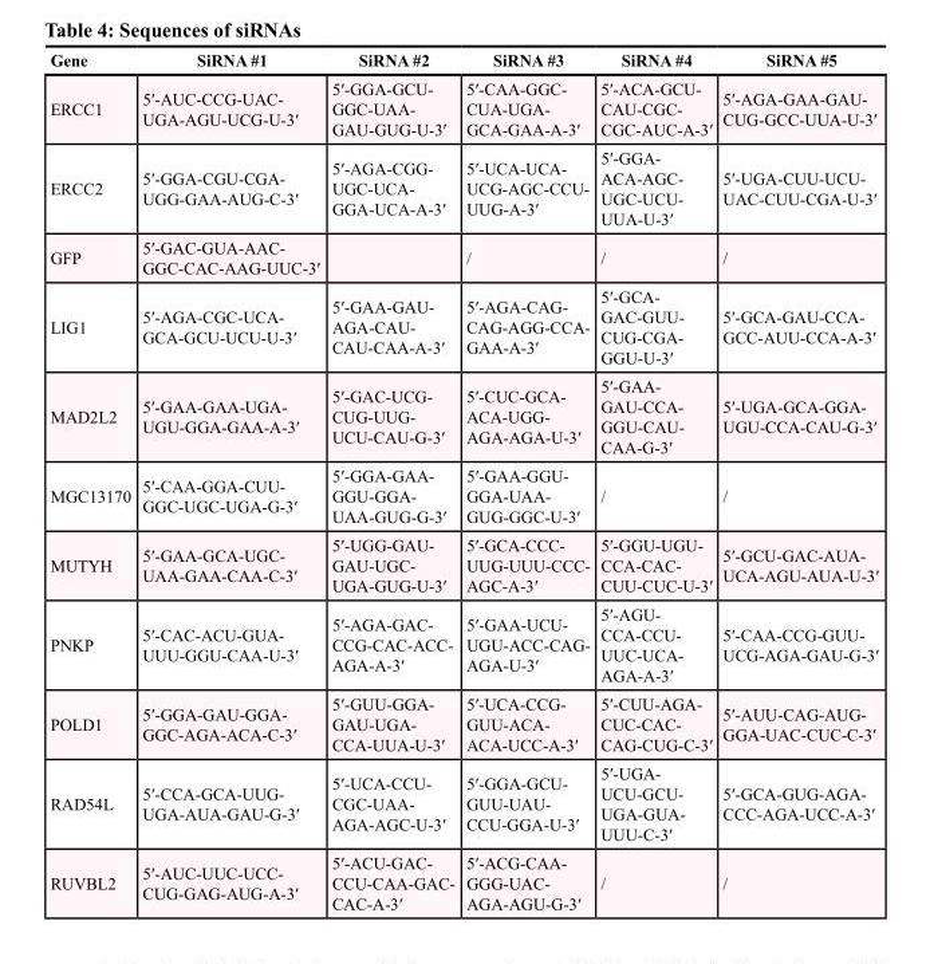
<table><thead><tr><td>Gene</td><td>SiRNA #1</td><td>SiRNA #2</td><td>SiRNA #3</td><td>SiRNA #4</td><td>SiRNA #5</td></tr></thead><tbody><tr><td>ERCC1</td><td>5′-AUC-CCG-UAC- UGA-AGU-UCG-U-3′</td><td>5′-GGA-GCU- GGC-UAA- GAU-GUG-U-3′</td><td>5′-CAA-GGC- CUA-UGA- GCA-GAA-A-3′</td><td>5′-ACA-GCU- CAU-CGC- CGC-AUC-A-3′</td><td>5′-AGA-GAA-GAU- CUG-GCC-UUA-U-3′</td></tr><tr><td>ERCC2</td><td>5′-GGA-CGU-CGA- UGG-GAA-AUG-C-3′</td><td>5′-AGA-CGG- UGC-UCA- GGA-UCA-A-3′</td><td>5′-UCA-UCA- UCG-AGC-CCU- UUG-A-3′</td><td>5′-GGA- ACA-AGC- UGC-UCU- UUA-U-3′</td><td>5′-UGA-CUU-UCU- UAC-CUU-CGA-U-3′</td></tr><tr><td>GFP</td><td>5′-GAC-GUA-AAC- GGC-CAC-AAG-UUC-3′</td><td></td><td>/</td><td>/</td><td>/</td></tr><tr><td>LIG1</td><td>5′-AGA-CGC-UCA- GCA-GCU-UCU-U-3′</td><td>5′-GAA-GAU- AGA-CAU- CAU-CAA-A-3′</td><td>5′-AGA-CAG- CAG-AGG-CCA- GAA-A-3′</td><td>5′-GCA- GAC-GUU- CUG-CGA- GGU-U-3′</td><td>5′-GCA-GAU-CCA- GCC-AUU-CCA-A-3′</td></tr><tr><td>MAD2L2</td><td>5′-GAA-GAA-UGA- UGU-GGA-GAA-A-3′</td><td>5′-GAC-UCG- CUG-UUG- UCU-CAU-G-3′</td><td>5′-CUC-GCA- ACA-UGG- AGA-AGA-U-3′</td><td>5′-GAA- GAU-CCA- GGU-CAU- CAA-G-3′</td><td>5′-UGA-GCA-GGA- UGU-CCA-CAU-G-3′</td></tr><tr><td>MGC13170</td><td>5′-CAA-GGA-CUU- GGC-UGC-UGA-G-3′</td><td>5′-GGA-GAA- GGU-GGA- UAA-GUG-G-3′</td><td>5′-GAA-GGU- GGA-UAA- GUG-GGC-U-3′</td><td>/</td><td>/</td></tr><tr><td>MUTYH</td><td>5′-GAA-GCA-UGC- UAA-GAA-CAA-C-3′</td><td>5′-UGG-GAU- GAU-UGC- UGA-GUG-U-3′</td><td>5′-GCA-CCC- UUG-UUU-CCC- AGC-A-3′</td><td>5′-GGU-UGU- CCA-CAC- CUU-CUC-U-3′</td><td>5′-GCU-GAC-AUA- UCA-AGU-AUA-U-3′</td></tr><tr><td>PNKP</td><td>5′-CAC-ACU-GUA- UUU-GGU-CAA-U-3′</td><td>5′-AGA-GAC- CCG-CAC-ACC- AGA-A-3′</td><td>5′-GAA-UCU- UGU-ACC-CAG- AGA-U-3′</td><td>5′-AGU- CCA-CCU- UUC-UCA- AGA-A-3′</td><td>5′-CAA-CCG-GUU- UCG-AGA-GAU-G-3′</td></tr><tr><td>POLD1</td><td>5′-GGA-GAU-GGA- GGC-AGA-ACA-C-3′</td><td>5′-GUU-GGA- GAU-UGA- CCA-UUA-U-3′</td><td>5′-UCA-CCG- GUU-ACA- ACA-UCC-A-3′</td><td>5′-CUU-AGA- CUC-CAC- CAG-CUG-C-3′</td><td>5′-AUU-CAG-AUG- GGA-UAC-CUC-C-3′</td></tr><tr><td>RAD54L</td><td>5′-CCA-GCA-UUG- UGA-AUA-GAU-G-3′</td><td>5′-UCA-CCU- CGC-UAA- AGA-AGC-U-3′</td><td>5′-GGA-GCU- GUU-UAU- CCU-GGA-U-3′</td><td>5′-UGA- UCU-GCU- UGA-GUA- UUU-C-3′</td><td>5′-GCA-GUG-AGA- CCC-AGA-UCC-A-3′</td></tr><tr><td>RUVBL2</td><td>5′-AUC-UUC-UCC- CUG-GAG-AUG-A-3′</td><td>5′-ACU-GAC- CCU-CAA-GAC- CAC-A-3′</td><td>5′-ACG-CAA- GGG-UAC- AGA-AGU-G-3′</td><td>/</td><td>/</td></tr></tbody></table>